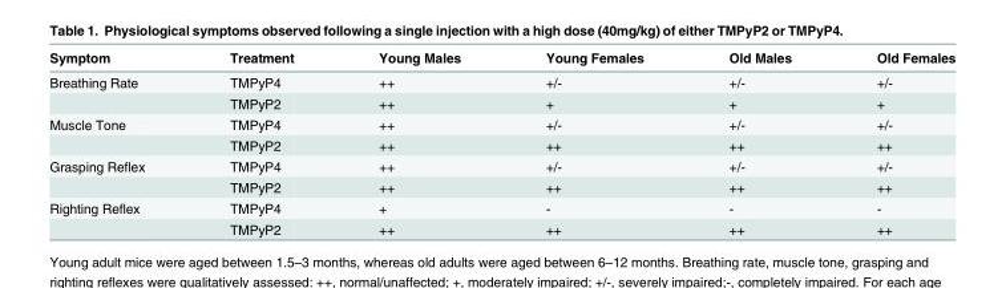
<table><thead><tr><td>Symptom</td><td>Treatment</td><td>Young Males</td><td>Young Females</td><td>Old Males</td><td>Old Females</td></tr></thead><tbody><tr><td rowspan="2">Breathing Rate</td><td>TMPyP4</td><td>++</td><td>+/-</td><td>+/-</td><td>+/-</td></tr><tr><td>TMPyP2</td><td>++</td><td>+</td><td>+</td><td>+</td></tr><tr><td rowspan="2">Muscle Tone</td><td>TMPyP4</td><td>++</td><td>+/-</td><td>+/-</td><td>+/-</td></tr><tr><td>TMPyP2</td><td>++</td><td>++</td><td>++</td><td>++</td></tr><tr><td rowspan="2">Grasping Reflex</td><td>TMPyP4</td><td>++</td><td>+/-</td><td>+/-</td><td>+/-</td></tr><tr><td>TMPyP2</td><td>++</td><td>++</td><td>++</td><td>++</td></tr><tr><td rowspan="2">Righting Reflex</td><td>TMPyP4</td><td>+</td><td>-</td><td>-</td><td>-</td></tr><tr><td>TMPyP2</td><td>++</td><td>++</td><td>++</td><td>++</td></tr></tbody></table>